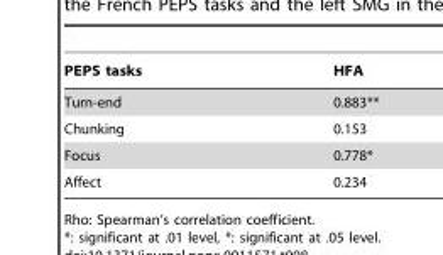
<table><thead><tr><td>PEPS tasks</td><td>HFA</td></tr></thead><tbody><tr><td>Turn-end</td><td>0.883**</td></tr><tr><td>Chunking</td><td>0.153</td></tr><tr><td>Focus</td><td>0.778*</td></tr><tr><td>Affect</td><td>0.234</td></tr></tbody></table>